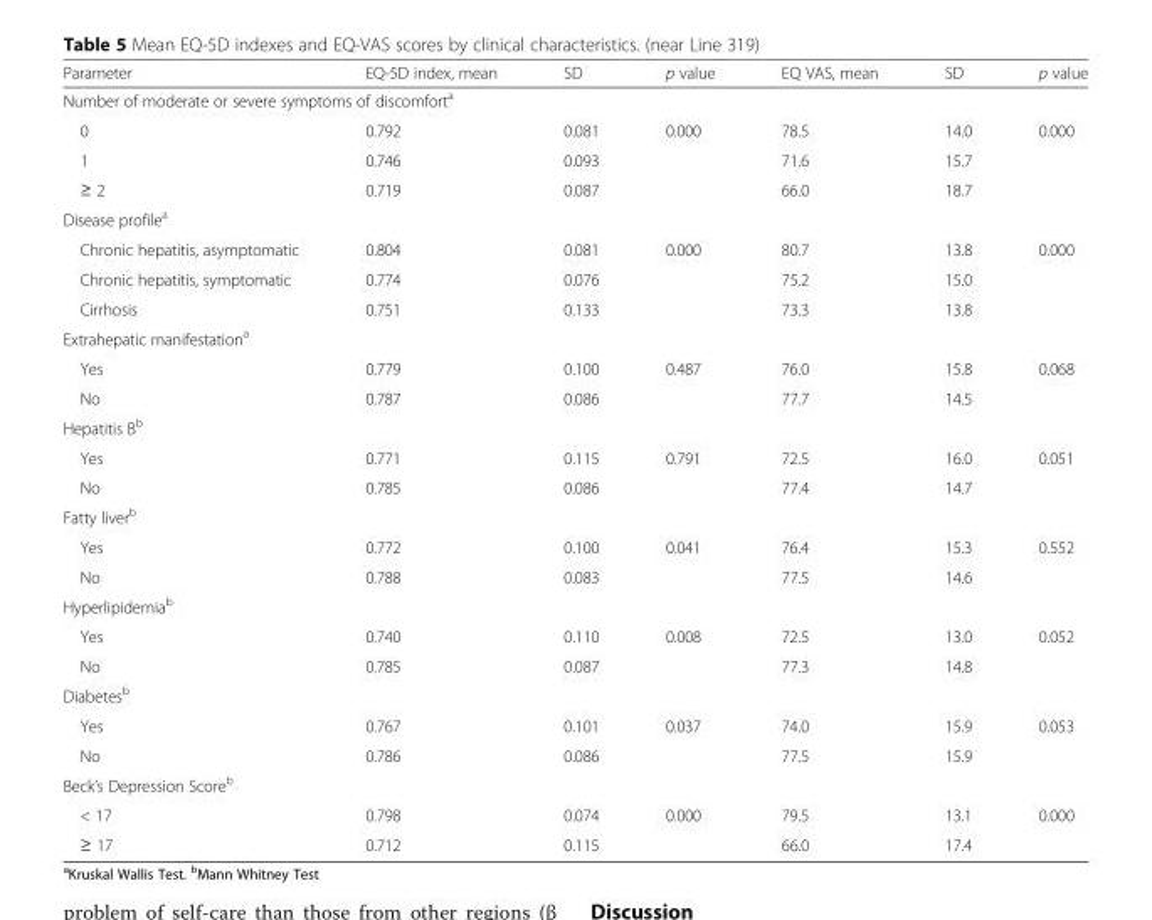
<table><thead><tr><td>Parameter</td><td>EQ-5D index, mean</td><td>SD</td><td>p value</td><td>EQ VAS, mean</td><td>SD</td><td>p value</td></tr></thead><tbody><tr><td colspan="7">Number of moderate or severe symptoms of discomfort<sup>a</sup></td></tr><tr><td>0</td><td>0.792</td><td>0.081</td><td>0.000</td><td>78.5</td><td>14.0</td><td>0.000</td></tr><tr><td>1</td><td>0.746</td><td>0.093</td><td></td><td>71.6</td><td>15.7</td><td></td></tr><tr><td>≥ 2</td><td>0.719</td><td>0.087</td><td></td><td>66.0</td><td>18.7</td><td></td></tr><tr><td colspan="7">Disease profile<sup>a</sup></td></tr><tr><td>Chronic hepatitis, asymptomatic</td><td>0.804</td><td>0.081</td><td>0.000</td><td>80.7</td><td>13.8</td><td>0.000</td></tr><tr><td>Chronic hepatitis, symptomatic</td><td>0.774</td><td>0.076</td><td></td><td>75.2</td><td>15.0</td><td></td></tr><tr><td>Cirrhosis</td><td>0.751</td><td>0.133</td><td></td><td>73.3</td><td>13.8</td><td></td></tr><tr><td colspan="7">Extrahepatic manifestation<sup>a</sup></td></tr><tr><td>Yes</td><td>0.779</td><td>0.100</td><td>0.487</td><td>76.0</td><td>15.8</td><td>0.068</td></tr><tr><td>No</td><td>0.787</td><td>0.086</td><td></td><td>77.7</td><td>14.5</td><td></td></tr><tr><td colspan="7">Hepatitis B<sup>b</sup></td></tr><tr><td>Yes</td><td>0.771</td><td>0.115</td><td>0.791</td><td>72.5</td><td>16.0</td><td>0.051</td></tr><tr><td>No</td><td>0.785</td><td>0.086</td><td></td><td>77.4</td><td>14.7</td><td></td></tr><tr><td colspan="7">Fatty liver<sup>b</sup></td></tr><tr><td>Yes</td><td>0.772</td><td>0.100</td><td>0.041</td><td>76.4</td><td>15.3</td><td>0.552</td></tr><tr><td>No</td><td>0.788</td><td>0.083</td><td></td><td>77.5</td><td>14.6</td><td></td></tr><tr><td colspan="7">Hyperlipidemia<sup>b</sup></td></tr><tr><td>Yes</td><td>0.740</td><td>0.110</td><td>0.008</td><td>72.5</td><td>13.0</td><td>0.052</td></tr><tr><td>No</td><td>0.785</td><td>0.087</td><td></td><td>77.3</td><td>14.8</td><td></td></tr><tr><td colspan="7">Diabetes<sup>b</sup></td></tr><tr><td>Yes</td><td>0.767</td><td>0.101</td><td>0.037</td><td>74.0</td><td>15.9</td><td>0.053</td></tr><tr><td>No</td><td>0.786</td><td>0.086</td><td></td><td>77.5</td><td>15.9</td><td></td></tr><tr><td colspan="7">Beck’s Depression Score<sup>b</sup></td></tr><tr><td>&lt; 17</td><td>0.798</td><td>0.074</td><td>0.000</td><td>79.5</td><td>13.1</td><td>0.000</td></tr><tr><td>≥ 17</td><td>0.712</td><td>0.115</td><td></td><td>66.0</td><td>17.4</td><td></td></tr></tbody></table>